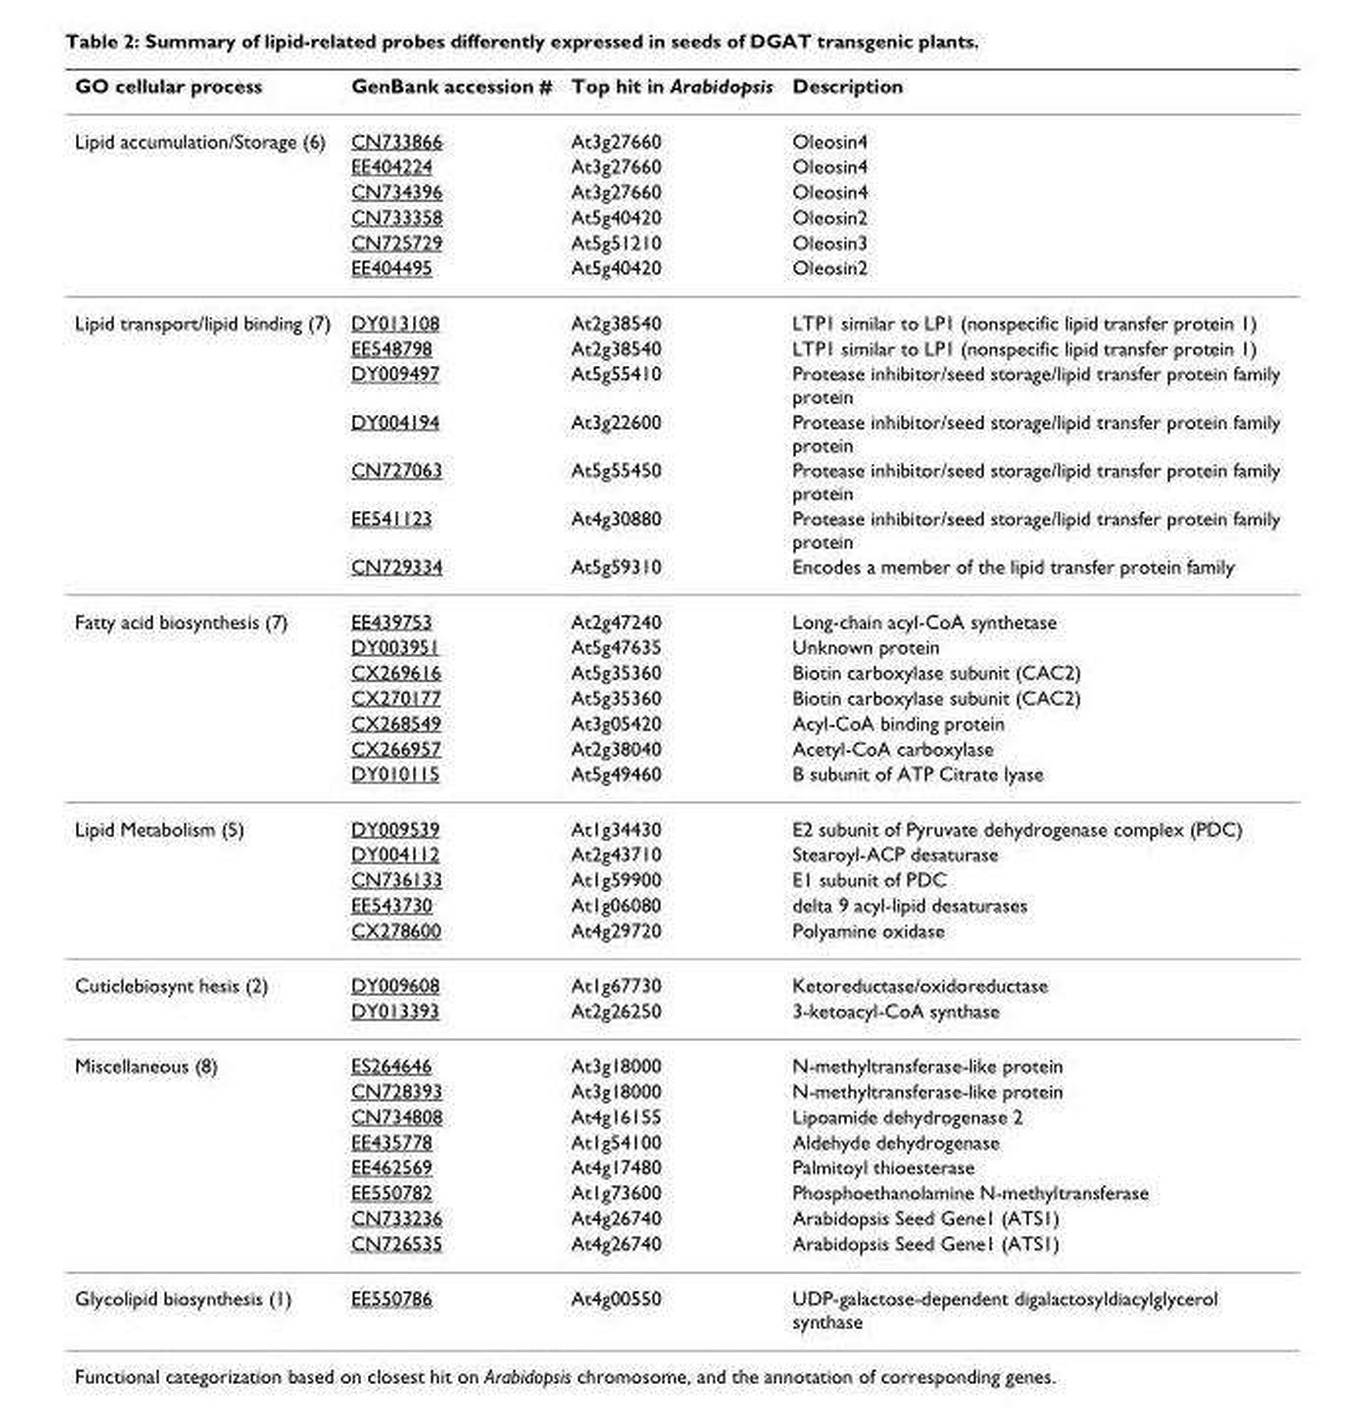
<table><thead><tr><td>GO cellular process</td><td>GenBank accession #</td><td>Top hit in Arabidopsis</td><td>Description</td></tr></thead><tbody><tr><td rowspan="6">Lipid accumulation/Storage (6)</td><td>CN733866</td><td>At3g27660</td><td>Oleosin4</td></tr><tr><td>EE404224</td><td>At3g27660</td><td>Oleosin4</td></tr><tr><td>CN734396</td><td>At3g27660</td><td>Oleosin4</td></tr><tr><td>CN733358</td><td>At5g40420</td><td>Oleosin2</td></tr><tr><td>CN725729</td><td>At5g51210</td><td>Oleosin3</td></tr><tr><td>EE404495</td><td>At5g40420</td><td>Oleosin2</td></tr><tr><td rowspan="7">Lipid transport/lipid binding (7)</td><td>DY013108</td><td>At2g38540</td><td>LTP1 similar to LP1 (nonspecific lipid transfer protein 1)</td></tr><tr><td>EE548798</td><td>At2g38540</td><td>LTP1 similar to LP1 (nonspecific lipid transfer protein 1)</td></tr><tr><td>DY009497</td><td>At5g55410</td><td>Protease inhibitor/seed storage/lipid transfer protein family protein</td></tr><tr><td>DY004194</td><td>At3g22600</td><td>Protease inhibitor/seed storage/lipid transfer protein family protein</td></tr><tr><td>CN727063</td><td>At5g55450</td><td>Protease inhibitor/seed storage/lipid transfer protein family protein</td></tr><tr><td>EE541123</td><td>At4g30880</td><td>Protease inhibitor/seed storage/lipid transfer protein family protein</td></tr><tr><td>CN729334</td><td>At5g59310</td><td>Encodes a member of the lipid transfer protein family</td></tr><tr><td rowspan="7">Fatty acid biosynthesis (7)</td><td>EE439753</td><td>At2g47240</td><td>Long-chain acyl-CoA synthetase</td></tr><tr><td>DY003951</td><td>At5g47635</td><td>Unknown protein</td></tr><tr><td>CX269616</td><td>At5g35360</td><td>Biotin carboxylase subunit (CAC2)</td></tr><tr><td>CX270177</td><td>At5g35360</td><td>Biotin carboxylase subunit (CAC2)</td></tr><tr><td>CX268549</td><td>At3g05420</td><td>Acyl-CoA binding protein</td></tr><tr><td>CX266957</td><td>At2g38040</td><td>Acetyl-CoA carboxylase</td></tr><tr><td>DY010115</td><td>At5g49460</td><td>B subunit of ATP Citrate lyase</td></tr><tr><td rowspan="5">Lipid Metabolism (5)</td><td>DY009539</td><td>At1g34430</td><td>E2 subunit of Pyruvate dehydrogenase complex (PDC)</td></tr><tr><td>DY004112</td><td>At2g43710</td><td>Stearoyl-ACP desaturase</td></tr><tr><td>CN736133</td><td>At1g59900</td><td>E1 subunit of PDC</td></tr><tr><td>EE543730</td><td>At1g06080</td><td>delta 9 acyl-lipid desaturases</td></tr><tr><td>CX278600</td><td>At4g29720</td><td>Polyamine oxidase</td></tr><tr><td rowspan="2">Cuticlebiosynt hesis (2)</td><td>DY009608</td><td>At1g67730</td><td>Ketoreductase/oxidoreductase</td></tr><tr><td>DY013393</td><td>At2g26250</td><td>3-ketoacyl-CoA synthase</td></tr><tr><td rowspan="8">Miscellaneous (8)</td><td>ES264646</td><td>At3g18000</td><td>N-methyltransferase-like protein</td></tr><tr><td>CN728393</td><td>At3g18000</td><td>N-methyltransferase-like protein</td></tr><tr><td>CN734808</td><td>At4g16155</td><td>Lipoamide dehydrogenase 2</td></tr><tr><td>EE435778</td><td>At1g54100</td><td>Aldehyde dehydrogenase</td></tr><tr><td>EE462569</td><td>At4g17480</td><td>Palmitoyl thioesterase</td></tr><tr><td>EE550782</td><td>At1g73600</td><td>Phosphoethanolamine N-methyltransferase</td></tr><tr><td>CN733236</td><td>At4g26740</td><td>Arabidopsis Seed Gene1 (ATS1)</td></tr><tr><td>CN726535</td><td>At4g26740</td><td>Arabidopsis Seed Gene1 (ATS1)</td></tr><tr><td>Glycolipid biosynthesis (1)</td><td>EE550786</td><td>At4g00550</td><td>UDP-galactose-dependent digalactosyldiacylglycerol synthase</td></tr></tbody></table>